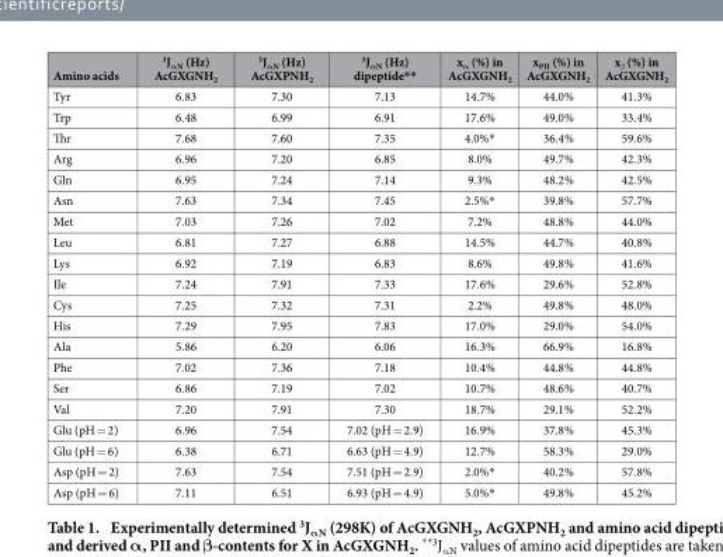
<table><thead><tr><td>Amino acids</td><td><sup>3</sup>J<sub>αN</sub> (Hz) AcGXGNH<sub>2</sub></td><td><sup>3</sup>J<sub>αN</sub> (Hz) AcGXPNH<sub>2</sub></td><td><sup>3</sup>J<sub>αN</sub> (Hz) dipeptide**</td><td>x<sub>α</sub> (%) in AcGXGNH<sub>2</sub></td><td>x<sub>PII</sub> (%) in AcGXGNH<sub>2</sub></td><td>xβ (%) in AcGXGNH2</td></tr></thead><tbody><tr><td>Tyr</td><td>6.83</td><td>7.30</td><td>7.13</td><td>14.7%</td><td>44.0%</td><td>41.3%</td></tr><tr><td>Trp</td><td>6.48</td><td>6.99</td><td>6.91</td><td>17.6%</td><td>49.0%</td><td>33.4%</td></tr><tr><td>Thr</td><td>7.68</td><td>7.60</td><td>7.35</td><td>4.0%*</td><td>36.4%</td><td>59.6%</td></tr><tr><td>Arg</td><td>6.96</td><td>7.20</td><td>6.85</td><td>8.0%</td><td>49.7%</td><td>42.3%</td></tr><tr><td>Gln</td><td>6.95</td><td>7.24</td><td>7.14</td><td>9.3%</td><td>48.2%</td><td>42.5%</td></tr><tr><td>Asn</td><td>7.63</td><td>7.34</td><td>7.45</td><td>2.5%*</td><td>39.8%</td><td>57.7%</td></tr><tr><td>Met</td><td>7.03</td><td>7.26</td><td>7.02</td><td>7.2%</td><td>48.8%</td><td>44.0%</td></tr><tr><td>Leu</td><td>6.81</td><td>7.27</td><td>6.88</td><td>14.5%</td><td>44.7%</td><td>40.8%</td></tr><tr><td>Lys</td><td>6.92</td><td>7.19</td><td>6.83</td><td>8.6%</td><td>49.8%</td><td>41.6%</td></tr><tr><td>Ile</td><td>7.24</td><td>7.91</td><td>7.33</td><td>17.6%</td><td>29.6%</td><td>52.8%</td></tr><tr><td>Cys</td><td>7.25</td><td>7.32</td><td>7.31</td><td>2.2%</td><td>49.8%</td><td>48.0%</td></tr><tr><td>His</td><td>7.29</td><td>7.95</td><td>7.83</td><td>17.0%</td><td>29.0%</td><td>54.0%</td></tr><tr><td>Ala</td><td>5.86</td><td>6.20</td><td>6.06</td><td>16.3%</td><td>66.9%</td><td>16.8%</td></tr><tr><td>Phe</td><td>7.02</td><td>7.36</td><td>7.18</td><td>10.4%</td><td>44.8%</td><td>44.8%</td></tr><tr><td>Ser</td><td>6.86</td><td>7.19</td><td>7.02</td><td>10.7%</td><td>48.6%</td><td>40.7%</td></tr><tr><td>Val</td><td>7.20</td><td>7.91</td><td>7.30</td><td>18.7%</td><td>29.1%</td><td>52.2%</td></tr><tr><td>Glu (pH = 2)</td><td>6.96</td><td>7.54</td><td>7.02 (pH = 2.9)</td><td>16.9%</td><td>37.8%</td><td>45.3%</td></tr><tr><td>Glu (pH = 6)</td><td>6.38</td><td>6.71</td><td>6.63 (pH = 4.9)</td><td>12.7%</td><td>58.3%</td><td>29.0%</td></tr><tr><td>Asp (pH = 2)</td><td>7.63</td><td>7.54</td><td>7.51 (pH = 2.9)</td><td>2.0%*</td><td>40.2%</td><td>57.8%</td></tr><tr><td>Asp (pH = 6)</td><td>7.11</td><td>6.51</td><td>6.93 (pH = 4.9)</td><td>5.0%*</td><td>49.8%</td><td>45.2%</td></tr></tbody></table>